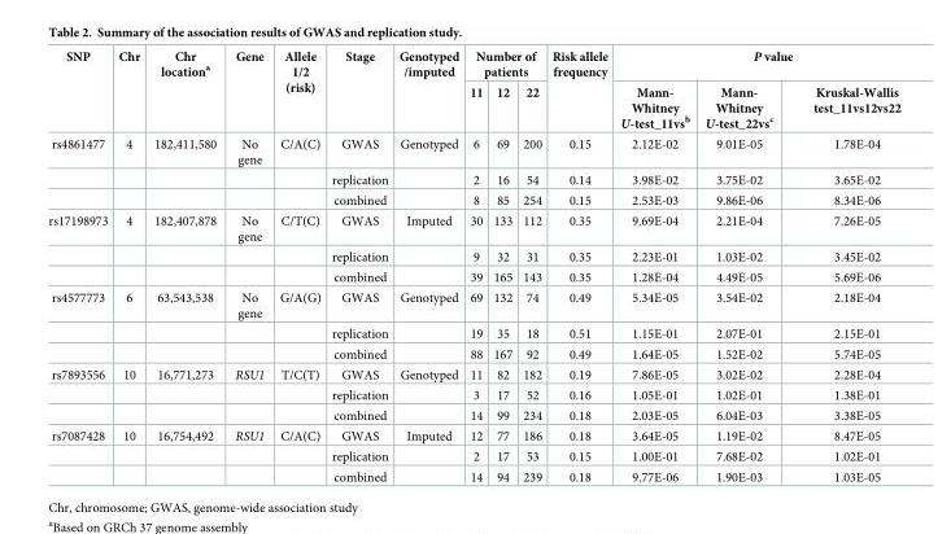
<table><thead><tr><td rowspan="2">SNP</td><td rowspan="2">Chr</td><td rowspan="2">Chr location<sup>a</sup></td><td rowspan="2">Gene</td><td rowspan="2">Allele 1/2 (risk)</td><td rowspan="2">Stage</td><td rowspan="2">Genotyped /imputed</td><td colspan="3">Number of patients</td><td rowspan="2">Risk allele frequency</td><td colspan="3">P value</td></tr><tr><td>11</td><td>12</td><td>22</td><td>Mann- Whitney U-test_11vs<sup>b</sup></td><td>Mann- Whitney U-test_22vs<sup>c</sup></td><td>Kruskal-Wallis test_11vs12vs22</td></tr></thead><tbody><tr><td rowspan="3">rs4861477</td><td>4</td><td>182,411,580</td><td>No gene</td><td>C/A(C)</td><td>GWAS</td><td>Genotyped</td><td>6</td><td>69</td><td>200</td><td>0.15</td><td>2.12E-02</td><td>9.01E-05</td><td>1.78E-04</td></tr><tr><td></td><td></td><td></td><td></td><td>replication</td><td></td><td>2</td><td>16</td><td>54</td><td>0.14</td><td>3.98E-02</td><td>3.75E-02</td><td>3.65E-02</td></tr><tr><td></td><td></td><td></td><td></td><td>combined</td><td></td><td>8</td><td>85</td><td>254</td><td>0.15</td><td>2.53E-03</td><td>9.86E-06</td><td>8.34E-06</td></tr><tr><td rowspan="3">rs17198973</td><td>4</td><td>182,407,878</td><td>No gene</td><td>C/T(C)</td><td>GWAS</td><td>Imputed</td><td>30</td><td>133</td><td>112</td><td>0.35</td><td>9.69E-04</td><td>2.21E-04</td><td>7.26E-05</td></tr><tr><td></td><td></td><td></td><td></td><td>replication</td><td></td><td>9</td><td>32</td><td>31</td><td>0.35</td><td>2.23E-01</td><td>1.03E-02</td><td>3.45E-02</td></tr><tr><td></td><td></td><td></td><td></td><td>combined</td><td></td><td>39</td><td>165</td><td>143</td><td>0.35</td><td>1.28E-04</td><td>4.49E-05</td><td>5.69E-06</td></tr><tr><td rowspan="3">rs4577773</td><td>6</td><td>63,543,538</td><td>No gene</td><td>G/A(G)</td><td>GWAS</td><td>Genotyped</td><td>69</td><td>132</td><td>74</td><td>0.49</td><td>5.34E-05</td><td>3.54E-02</td><td>2.18E-04</td></tr><tr><td></td><td></td><td></td><td></td><td>replication</td><td></td><td>19</td><td>35</td><td>18</td><td>0.51</td><td>1.15E-01</td><td>2.07E-01</td><td>2.15E-01</td></tr><tr><td></td><td></td><td></td><td></td><td>combined</td><td></td><td>88</td><td>167</td><td>92</td><td>0.49</td><td>1.64E-05</td><td>1.52E-02</td><td>5.74E-05</td></tr><tr><td rowspan="3">rs7893556</td><td>10</td><td>16,771,273</td><td>RSU1</td><td>T/C(T)</td><td>GWAS</td><td>Genotyped</td><td>11</td><td>82</td><td>182</td><td>0.19</td><td>7.86E-05</td><td>3.02E-02</td><td>2.28E-04</td></tr><tr><td></td><td></td><td></td><td></td><td>replication</td><td></td><td>3</td><td>17</td><td>52</td><td>0.16</td><td>1.05E-01</td><td>1.02E-01</td><td>1.38E-01</td></tr><tr><td></td><td></td><td></td><td></td><td>combined</td><td></td><td>14</td><td>99</td><td>234</td><td>0.18</td><td>2.03E-05</td><td>6.04E-03</td><td>3.38E-05</td></tr><tr><td rowspan="3">rs7087428</td><td>10</td><td>16,754,492</td><td>RSU1</td><td>C/A(C)</td><td>GWAS</td><td>Imputed</td><td>12</td><td>77</td><td>186</td><td>0.18</td><td>3.64E-05</td><td>1.19E-02</td><td>8.47E-05</td></tr><tr><td></td><td></td><td></td><td></td><td>replication</td><td></td><td>2</td><td>17</td><td>53</td><td>0.15</td><td>1.00E-01</td><td>7.68E-02</td><td>1.02E-01</td></tr><tr><td></td><td></td><td></td><td></td><td>combined</td><td></td><td>14</td><td>94</td><td>239</td><td>0.18</td><td>9.77E-06</td><td>1.90E-03</td><td>1.03E-05</td></tr></tbody></table>